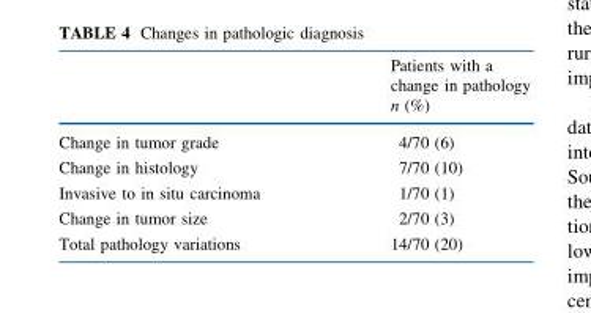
<table><thead><tr><td></td><td>Patients with a change in pathology n (%)</td></tr></thead><tbody><tr><td>Change in tumor grade</td><td>4/70 (6)</td></tr><tr><td>Change in histology</td><td>7/70 (10)</td></tr><tr><td>Invasive to in situ carcinoma</td><td>1/70 (1)</td></tr><tr><td>Change in tumor size</td><td>2/70 (3)</td></tr><tr><td>Total pathology variations</td><td>14/70 (20)</td></tr></tbody></table>